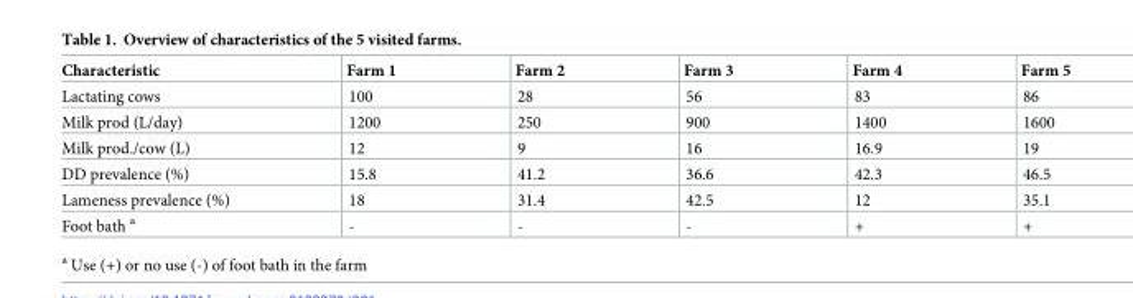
<table><thead><tr><td>Characteristic</td><td>Farm 1</td><td>Farm 2</td><td>Farm 3</td><td>Farm 4</td><td>Farm 5</td></tr></thead><tbody><tr><td>Lactating cows</td><td>100</td><td>28</td><td>56</td><td>83</td><td>86</td></tr><tr><td>Milk prod (L/day)</td><td>1200</td><td>250</td><td>900</td><td>1400</td><td>1600</td></tr><tr><td>Milk prod./cow (L)</td><td>12</td><td>9</td><td>16</td><td>16.9</td><td>19</td></tr><tr><td>DD prevalence (%)</td><td>15.8</td><td>41.2</td><td>36.6</td><td>42.3</td><td>46.5</td></tr><tr><td>Lameness prevalence (%)</td><td>18</td><td>31.4</td><td>42.5</td><td>12</td><td>35.1</td></tr><tr><td>Foot bath <sup>a</sup></td><td>-</td><td>-</td><td>-</td><td>+</td><td>+</td></tr></tbody></table>